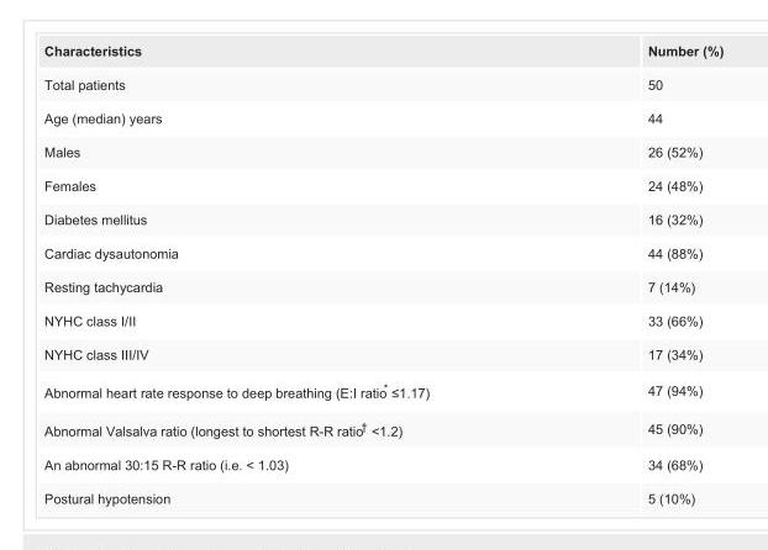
<table><tbody><tr><td>Characteristics</td><td>Number (%)</td></tr><tr><td>Total patients</td><td>50</td></tr><tr><td>Age (median) years</td><td>44</td></tr><tr><td>Males</td><td>26 (52%)</td></tr><tr><td>Females</td><td>24 (48%)</td></tr><tr><td>Diabetes mellitus</td><td>16 (32%)</td></tr><tr><td>Cardiac dysautonomia</td><td>44 (88%)</td></tr><tr><td>Resting tachycardia</td><td>7 (14%)</td></tr><tr><td>NYHC class I/II</td><td>33 (66%)</td></tr><tr><td>NYHC class III/IV</td><td>17 (34%)</td></tr><tr><td>Abnormal heart rate response to deep breathing (E:I ratio* ≤1.17)</td><td>47 (94%)</td></tr><tr><td>Abnormal Valsalva ratio (longest to shortest R-R ratio<sup>†</sup> &lt;1.2)</td><td>45 (90%)</td></tr><tr><td>An abnormal 30:15 R-R ratio (i.e. &lt; 1.03)</td><td>34 (68%)</td></tr><tr><td>Postural hypotension</td><td>5 (10%)</td></tr></tbody></table>